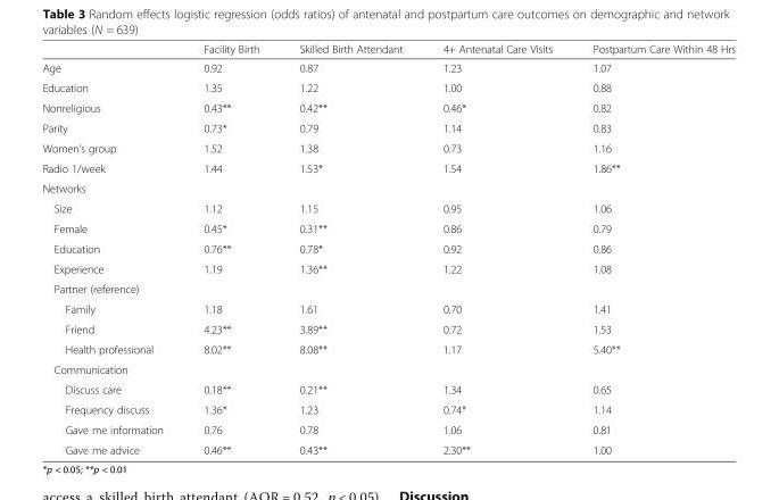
<table><thead><tr><td></td><td>Facility Birth</td><td>Skilled Birth Attendant</td><td>4+ Antenatal Care Visits</td><td>Postpartum Care Within 48 Hrs</td></tr></thead><tbody><tr><td>Age</td><td>0.92</td><td>0.87</td><td>1.23</td><td>1.07</td></tr><tr><td>Education</td><td>1.35</td><td>1.22</td><td>1.00</td><td>0.88</td></tr><tr><td>Nonreligious</td><td>0.43**</td><td>0.42**</td><td>0.46*</td><td>0.82</td></tr><tr><td>Parity</td><td>0.73*</td><td>0.79</td><td>1.14</td><td>0.83</td></tr><tr><td>Women’s group</td><td>1.52</td><td>1.38</td><td>0.73</td><td>1.16</td></tr><tr><td>Radio 1/week</td><td>1.44</td><td>1.53*</td><td>1.54</td><td>1.86**</td></tr><tr><td colspan="5">Networks</td></tr><tr><td>Size</td><td>1.12</td><td>1.15</td><td>0.95</td><td>1.06</td></tr><tr><td>Female</td><td>0.45*</td><td>0.31**</td><td>0.86</td><td>0.79</td></tr><tr><td>Education</td><td>0.76**</td><td>0.78*</td><td>0.92</td><td>0.86</td></tr><tr><td>Experience</td><td>1.19</td><td>1.36**</td><td>1.22</td><td>1.08</td></tr><tr><td colspan="5">Partner (reference)</td></tr><tr><td>Family</td><td>1.18</td><td>1.61</td><td>0.70</td><td>1.41</td></tr><tr><td>Friend</td><td>4.23**</td><td>3.89**</td><td>0.72</td><td>1.53</td></tr><tr><td>Health professional</td><td>8.02**</td><td>8.08**</td><td>1.17</td><td>5.40**</td></tr><tr><td colspan="5">Communication</td></tr><tr><td>Discuss care</td><td>0.18**</td><td>0.21**</td><td>1.34</td><td>0.65</td></tr><tr><td>Frequency discuss</td><td>1.36*</td><td>1.23</td><td>0.74*</td><td>1.14</td></tr><tr><td>Gave me information</td><td>0.76</td><td>0.78</td><td>1.06</td><td>0.81</td></tr><tr><td>Gave me advice</td><td>0.46**</td><td>0.43**</td><td>2.30**</td><td>1.00</td></tr></tbody></table>